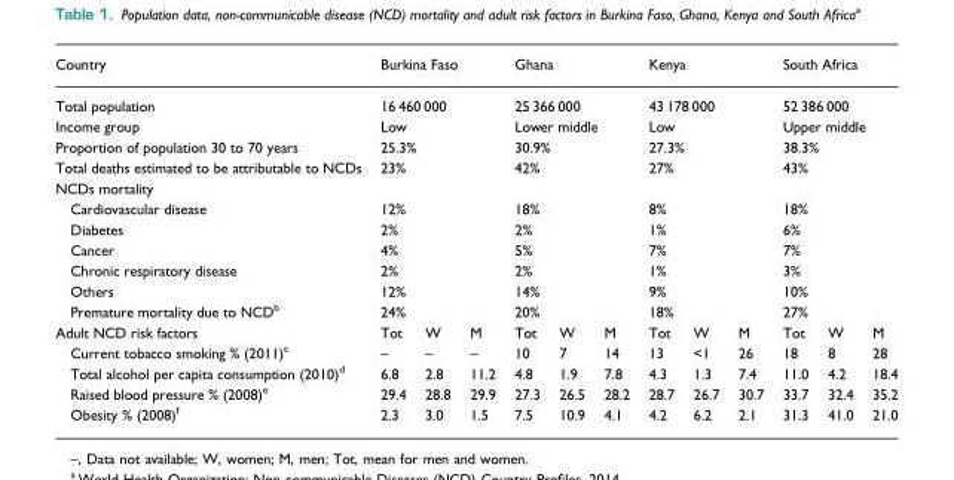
<table><thead><tr><td>Country</td><td colspan="3">Burkina Faso</td><td colspan="3">Ghana</td><td colspan="3">Kenya</td><td colspan="3">South Africa</td></tr></thead><tbody><tr><td>Total population</td><td colspan="3">16 460 000</td><td colspan="3">25 366 000</td><td colspan="3">43 178 000</td><td colspan="3">52 386 000</td></tr><tr><td>Income group</td><td colspan="3">Low</td><td colspan="3">Lower middle</td><td colspan="3">Low</td><td colspan="3">Upper middle</td></tr><tr><td>Proportion of population 30 to 70 years</td><td colspan="3">25.3%</td><td colspan="3">30.9%</td><td colspan="3">27.3%</td><td colspan="3">38.3%</td></tr><tr><td>Total deaths estimated to be attributable to NCDs</td><td colspan="3">23%</td><td colspan="3">42%</td><td colspan="3">27%</td><td colspan="3">43%</td></tr><tr><td colspan="13">NCDs mortality</td></tr><tr><td>Cardiovascular disease</td><td colspan="3">12%</td><td colspan="3">18%</td><td colspan="3">8%</td><td colspan="3">18%</td></tr><tr><td>Diabetes</td><td colspan="3">2%</td><td colspan="3">2%</td><td colspan="3">1%</td><td colspan="3">6%</td></tr><tr><td>Cancer</td><td colspan="3">4%</td><td colspan="3">5%</td><td colspan="3">7%</td><td colspan="3">7%</td></tr><tr><td>Chronic respiratory disease</td><td colspan="3">2%</td><td colspan="3">2%</td><td colspan="3">1%</td><td colspan="3">3%</td></tr><tr><td>Others</td><td colspan="3">12%</td><td colspan="3">14%</td><td colspan="3">9%</td><td colspan="3">10%</td></tr><tr><td>Premature mortality due to NCD<sup>b</sup></td><td colspan="3">24%</td><td colspan="3">20%</td><td colspan="3">18%</td><td colspan="3">27%</td></tr><tr><td>Adult NCD risk factors</td><td>Tot</td><td>W</td><td>M</td><td>Tot</td><td>W</td><td>M</td><td>Tot</td><td>W</td><td>M</td><td>Tot</td><td>W</td><td>M</td></tr><tr><td>Current tobacco smoking % (2011)<sup>c</sup></td><td>–</td><td>–</td><td>–</td><td>10</td><td>7</td><td>14</td><td>13</td><td>&lt;1</td><td>26</td><td>18</td><td>8</td><td>28</td></tr><tr><td>Total alcohol per capita consumption (2010)<sup>d</sup></td><td>6.8</td><td>2.8</td><td>11.2</td><td>4.8</td><td>1.9</td><td>7.8</td><td>4.3</td><td>1.3</td><td>7.4</td><td>11.0</td><td>4.2</td><td>18.4</td></tr><tr><td>Raised blood pressure % (2008)<sup>e</sup></td><td>29.4</td><td>28.8</td><td>29.9</td><td>27.3</td><td>26.5</td><td>28.2</td><td>28.7</td><td>26.7</td><td>30.7</td><td>33.7</td><td>32.4</td><td>35.2</td></tr><tr><td>Obesity % (2008)<sup>f</sup></td><td>2.3</td><td>3.0</td><td>1.5</td><td>7.5</td><td>10.9</td><td>4.1</td><td>4.2</td><td>6.2</td><td>2.1</td><td>31.3</td><td>41.0</td><td>21.0</td></tr></tbody></table>